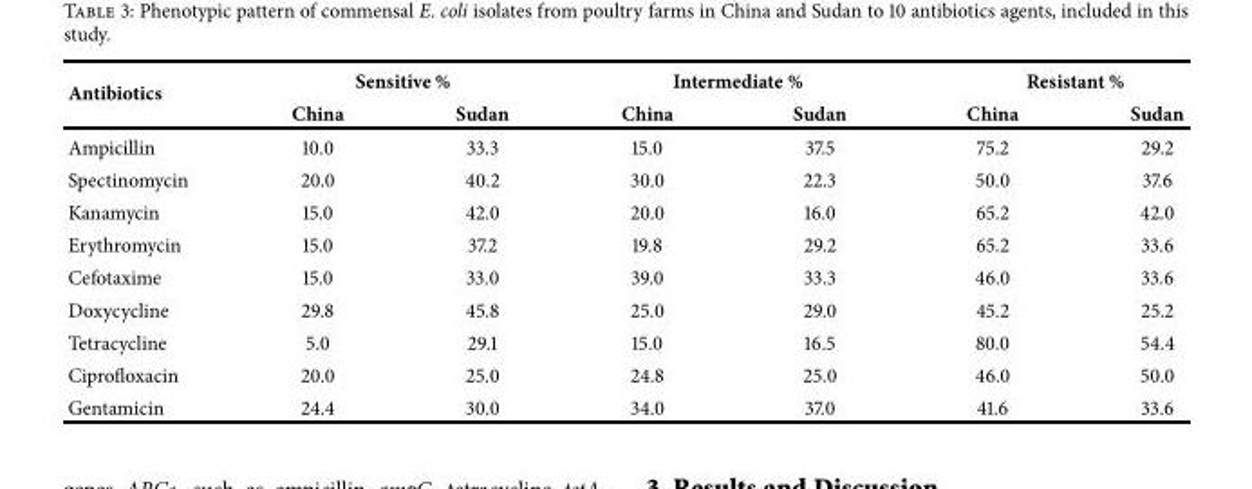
<table><thead><tr><td rowspan="2">Antibiotics</td><td colspan="2">Sensitive %</td><td colspan="2">Intermediate %</td><td colspan="2">Resistant %</td></tr><tr><td>China</td><td>Sudan</td><td>China</td><td>Sudan</td><td>China</td><td>Sudan</td></tr></thead><tbody><tr><td>Ampicillin</td><td>10.0</td><td>33.3</td><td>15.0</td><td>37.5</td><td>75.2</td><td>29.2</td></tr><tr><td>Spectinomycin</td><td>20.0</td><td>40.2</td><td>30.0</td><td>22.3</td><td>50.0</td><td>37.6</td></tr><tr><td>Kanamycin</td><td>15.0</td><td>42.0</td><td>20.0</td><td>16.0</td><td>65.2</td><td>42.0</td></tr><tr><td>Erythromycin</td><td>15.0</td><td>37.2</td><td>19.8</td><td>29.2</td><td>65.2</td><td>33.6</td></tr><tr><td>Cefotaxime</td><td>15.0</td><td>33.0</td><td>39.0</td><td>33.3</td><td>46.0</td><td>33.6</td></tr><tr><td>Doxycycline</td><td>29.8</td><td>45.8</td><td>25.0</td><td>29.0</td><td>45.2</td><td>25.2</td></tr><tr><td>Tetracycline</td><td>5.0</td><td>29.1</td><td>15.0</td><td>16.5</td><td>80.0</td><td>54.4</td></tr><tr><td>Ciprofloxacin</td><td>20.0</td><td>25.0</td><td>24.8</td><td>25.0</td><td>46.0</td><td>50.0</td></tr><tr><td>Gentamicin</td><td>24.4</td><td>30.0</td><td>34.0</td><td>37.0</td><td>41.6</td><td>33.6</td></tr></tbody></table>